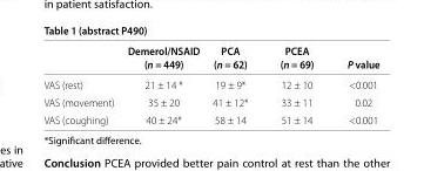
<table><thead><tr><td></td><td>Demerol/NSAID (n = 449)</td><td>PCA (n = 62)</td><td>PCEA (n = 69)</td><td>P value</td></tr></thead><tbody><tr><td>VAS (rest)</td><td>21 ± 14 *</td><td>19 ± 9*</td><td>12 ± 10</td><td>&lt;0.001</td></tr><tr><td>VAS (movement)</td><td>35 ± 20</td><td>41 ± 12*</td><td>33 ± 11</td><td>0.02</td></tr><tr><td>VAS (coughing)</td><td>40 ± 24*</td><td>58 ± 14</td><td>51 ± 14</td><td>&lt;0.001</td></tr></tbody></table>